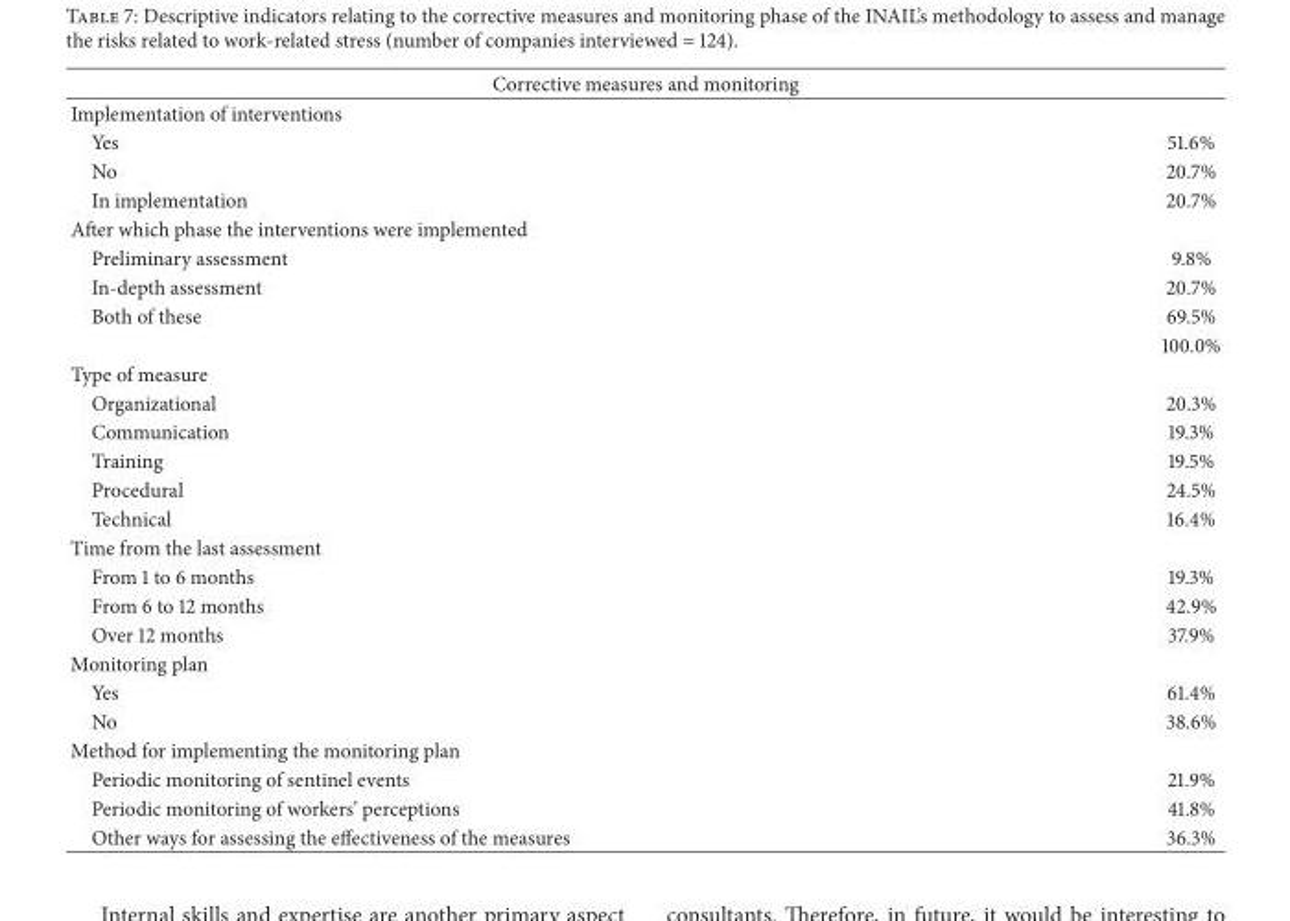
<table><thead><tr><td colspan="2">Corrective measures and monitoring</td></tr><tr><td>Implementation of interventions</td><td></td></tr></thead><tbody><tr><td>Yes</td><td>51.6%</td></tr><tr><td>No</td><td>20.7%</td></tr><tr><td>In implementation</td><td>20.7%</td></tr><tr><td colspan="2">After which phase the interventions were implemented</td></tr><tr><td>Preliminary assessment</td><td>9.8%</td></tr><tr><td>In-depth assessment</td><td>20.7%</td></tr><tr><td rowspan="2">Both of these</td><td>69.5%</td></tr><tr><td>100.0%</td></tr><tr><td colspan="2">Type of measure</td></tr><tr><td>Organizational</td><td>20.3%</td></tr><tr><td>Communication</td><td>19.3%</td></tr><tr><td>Training</td><td>19.5%</td></tr><tr><td>Procedural</td><td>24.5%</td></tr><tr><td>Technical</td><td>16.4%</td></tr><tr><td colspan="2">Time from the last assessment</td></tr><tr><td>From 1 to 6 months</td><td>19.3%</td></tr><tr><td>From 6 to 12 months</td><td>42.9%</td></tr><tr><td>Over 12 months</td><td>37.9%</td></tr><tr><td colspan="2">Monitoring plan</td></tr><tr><td>Yes</td><td>61.4%</td></tr><tr><td>No</td><td>38.6%</td></tr><tr><td colspan="2">Method for implementing the monitoring plan</td></tr><tr><td>Periodic monitoring of sentinel events</td><td>21.9%</td></tr><tr><td>Periodic monitoring of workers’ perceptions</td><td>41.8%</td></tr><tr><td>Other ways for assessing the effectiveness of the measures</td><td>36.3%</td></tr></tbody></table>